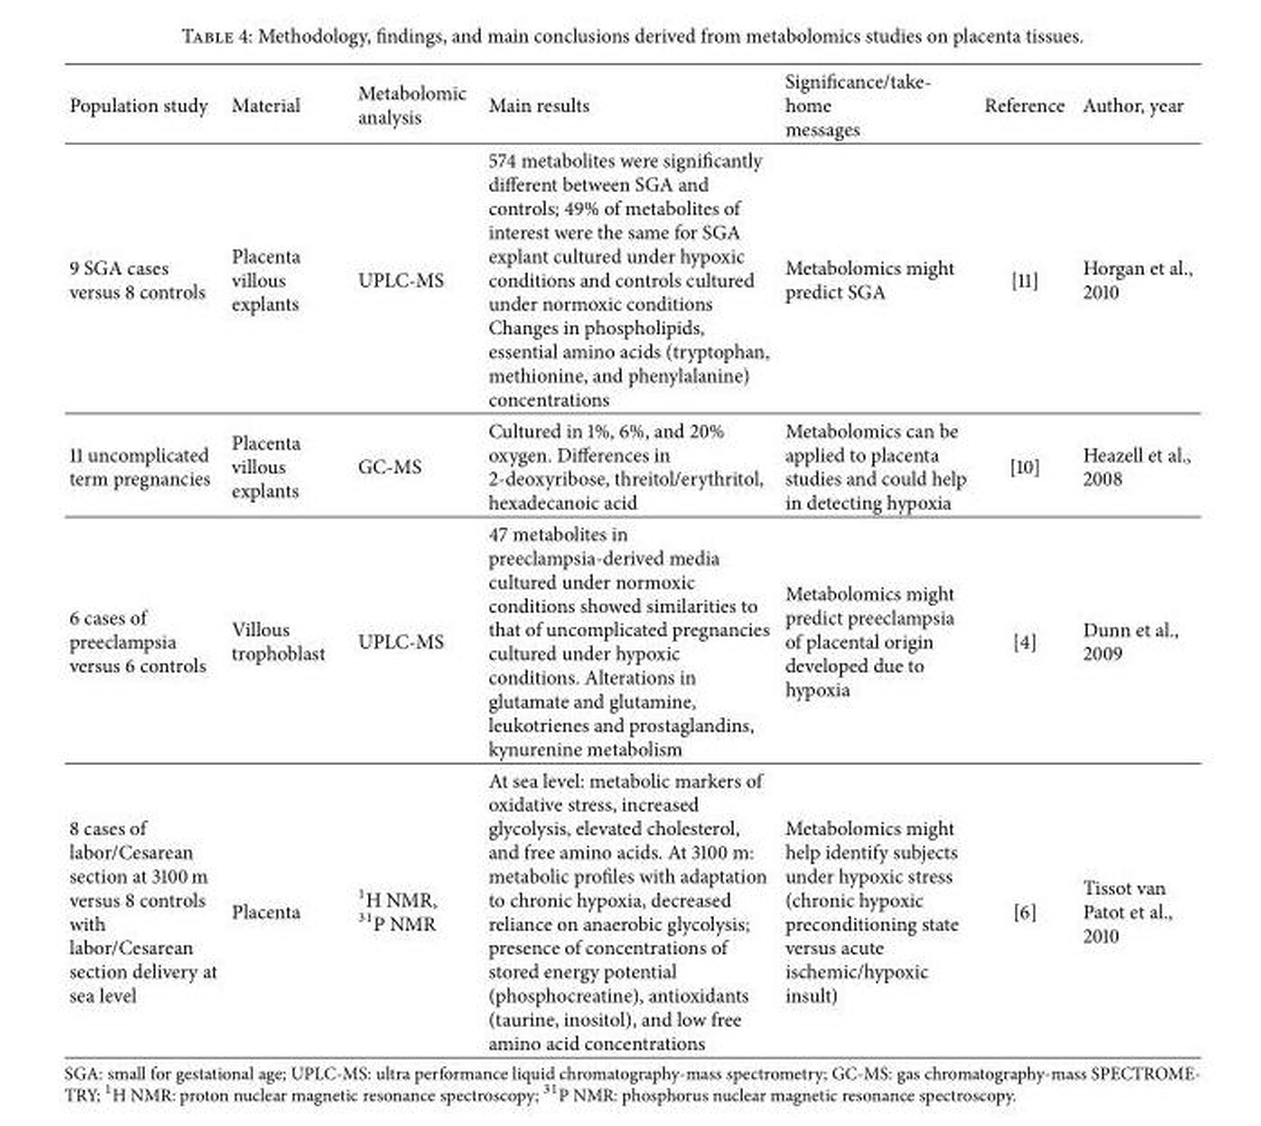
<table><thead><tr><td>Population study</td><td>Material</td><td>Metabolomic analysis</td><td>Main results</td><td>Significance/take- home messages</td><td>Reference</td><td>Author, year</td></tr></thead><tbody><tr><td>9 SGA cases versus 8 controls</td><td>Placenta villous explants</td><td>UPLC-MS</td><td>574 metabolites were significantly different between SGA and controls; 49% of metabolites of interest were the same for SGA explant cultured under hypoxic conditions and controls cultured under normoxic conditions Changes in phospholipids, essential amino acids (tryptophan, methionine, and phenylalanine) concentrations</td><td>Metabolomics might predict SGA</td><td>[11]</td><td>Horgan et al., 2010</td></tr><tr><td>11 uncomplicated term pregnancies</td><td>Placenta villous explants</td><td>GC-MS</td><td>Cultured in 1%, 6%, and 20% oxygen. Differences in 2-deoxyribose, threitol/erythritol, hexadecanoic acid</td><td>Metabolomics can be applied to placenta studies and could help in detecting hypoxia</td><td>[10]</td><td>Heazell et al., 2008</td></tr><tr><td>6 cases of preeclampsia versus 6 controls</td><td>Villous trophoblast</td><td>UPLC-MS</td><td>47 metabolites in preeclampsia-derived media cultured under normoxic conditions showed similarities to that of uncomplicated pregnancies cultured under hypoxic conditions. Alterations in glutamate and glutamine, leukotrienes and prostaglandins, kynurenine metabolism</td><td>Metabolomics might predict preeclampsia of placental origin developed due to hypoxia</td><td>[4]</td><td>Dunn et al., 2009</td></tr><tr><td>8 cases of labor/Cesarean section at 3100 m versus 8 controls with labor/Cesarean section delivery at sea level</td><td>Placenta</td><td><sup>1</sup>H NMR, <sup>31</sup>P NMR</td><td>At sea level: metabolic markers of oxidative stress, increased glycolysis, elevated cholesterol, and free amino acids. At 3100 m: metabolic profiles with adaptation to chronic hypoxia, decreased reliance on anaerobic glycolysis; presence of concentrations of stored energy potential (phosphocreatine), antioxidants (taurine, inositol), and low free amino acid concentrations</td><td>Metabolomics might help identify subjects under hypoxic stress (chronic hypoxic preconditioning state versus acute ischemic/hypoxic insult)</td><td>[6]</td><td>Tissot van Patot et al., 2010</td></tr></tbody></table>